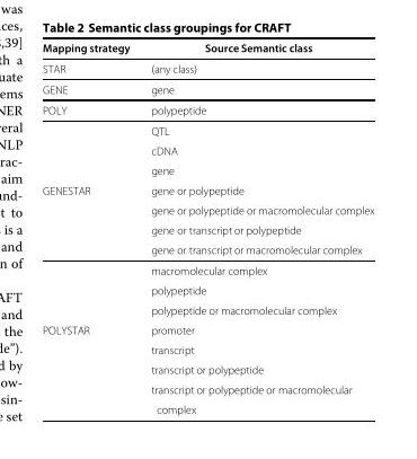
<table><thead><tr><td>Mapping strategy</td><td>Source Semantic class</td></tr></thead><tbody><tr><td>STAR</td><td>(any class)</td></tr><tr><td>GENE</td><td>gene</td></tr><tr><td rowspan="4">POLY</td><td>polypeptide</td></tr><tr><td>QTL</td></tr><tr><td>cDNA</td></tr><tr><td>gene</td></tr><tr><td rowspan="7">GENESTAR</td><td>gene or polypeptide</td></tr><tr><td>gene or polypeptide or macromolecular complex</td></tr><tr><td>gene or transcript or polypeptide</td></tr><tr><td>gene or transcript or macromolecular complex</td></tr><tr><td>macromolecular complex</td></tr><tr><td>polypeptide</td></tr><tr><td>polypeptide or macromolecular complex</td></tr><tr><td rowspan="4">POLYSTAR</td><td>promoter</td></tr><tr><td>transcript</td></tr><tr><td>transcript or polypeptide</td></tr><tr><td>transcript or polypeptide or macromolecular complex</td></tr></tbody></table>